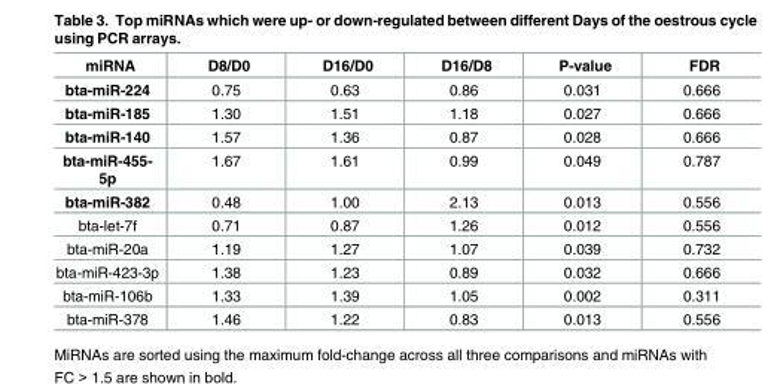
<table><thead><tr><td>miRNA</td><td>D8/D0</td><td>D16/D0</td><td>D16/D8</td><td>P-value</td><td>FDR</td></tr></thead><tbody><tr><td>bta-miR-224</td><td>0.75</td><td>0.63</td><td>0.86</td><td>0.031</td><td>0.666</td></tr><tr><td>bta-miR-185</td><td>1.30</td><td>1.51</td><td>1.18</td><td>0.027</td><td>0.666</td></tr><tr><td>bta-miR-140</td><td>1.57</td><td>1.36</td><td>0.87</td><td>0.028</td><td>0.666</td></tr><tr><td>bta-miR-455- 5p</td><td>1.67</td><td>1.61</td><td>0.99</td><td>0.049</td><td>0.787</td></tr><tr><td>bta-miR-382</td><td>0.48</td><td>1.00</td><td>2.13</td><td>0.013</td><td>0.556</td></tr><tr><td>bta-let-7f</td><td>0.71</td><td>0.87</td><td>1.26</td><td>0.012</td><td>0.556</td></tr><tr><td>bta-miR-20a</td><td>1.19</td><td>1.27</td><td>1.07</td><td>0.039</td><td>0.732</td></tr><tr><td>bta-miR-423-3p</td><td>1.38</td><td>1.23</td><td>0.89</td><td>0.032</td><td>0.666</td></tr><tr><td>bta-miR-106b</td><td>1.33</td><td>1.39</td><td>1.05</td><td>0.002</td><td>0.311</td></tr><tr><td>bta-miR-378</td><td>1.46</td><td>1.22</td><td>0.83</td><td>0.013</td><td>0.556</td></tr></tbody></table>